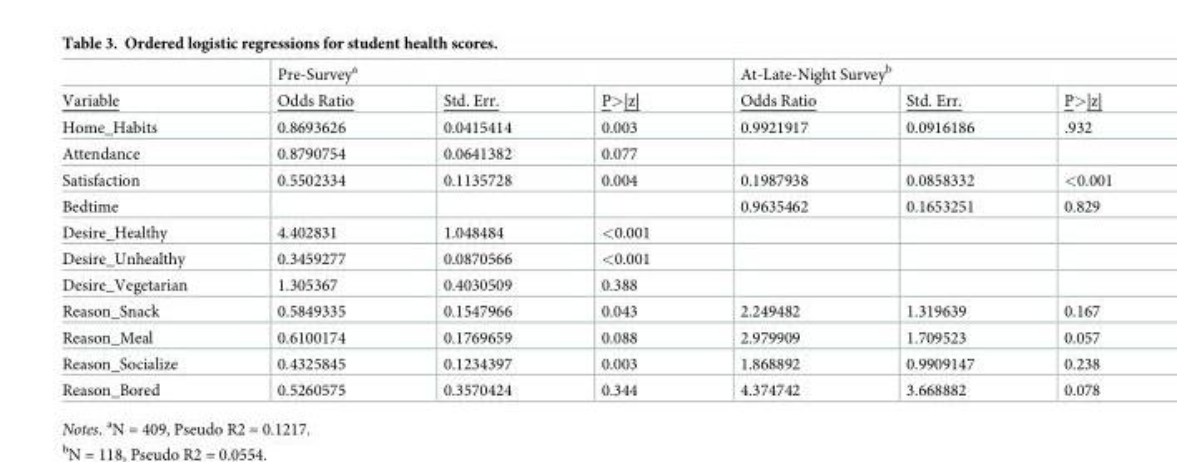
<table><thead><tr><td rowspan="2">Variable</td><td colspan="3">Pre-Survey<sup>a</sup></td><td colspan="3">At-Late-Night Survey<sup>b</sup></td></tr><tr><td>Odds Ratio</td><td>Std. Err.</td><td>P&gt;|z|</td><td>Odds Ratio</td><td>Std. Err.</td><td>P&gt;|z|</td></tr></thead><tbody><tr><td>Home_Habits</td><td>0.8693626</td><td>0.0415414</td><td>0.003</td><td>0.9921917</td><td>0.0916186</td><td>.932</td></tr><tr><td>Attendance</td><td>0.8790754</td><td>0.0641382</td><td>0.077</td><td></td><td></td><td></td></tr><tr><td>Satisfaction</td><td>0.5502334</td><td>0.1135728</td><td>0.004</td><td>0.1987938</td><td>0.0858332</td><td>&lt;0.001</td></tr><tr><td>Bedtime</td><td></td><td></td><td></td><td>0.9635462</td><td>0.1653251</td><td>0.829</td></tr><tr><td>Desire_Healthy</td><td>4.402831</td><td>1.048484</td><td>&lt;0.001</td><td></td><td></td><td></td></tr><tr><td>Desire_Unhealthy</td><td>0.3459277</td><td>0.0870566</td><td>&lt;0.001</td><td></td><td></td><td></td></tr><tr><td>Desire_Vegetarian</td><td>1.305367</td><td>0.4030509</td><td>0.388</td><td></td><td></td><td></td></tr><tr><td>Reason_Snack</td><td>0.5849335</td><td>0.1547966</td><td>0.043</td><td>2.249482</td><td>1.319639</td><td>0.167</td></tr><tr><td>Reason_Meal</td><td>0.6100174</td><td>0.1769659</td><td>0.088</td><td>2.979909</td><td>1.709523</td><td>0.057</td></tr><tr><td>Reason_Socialize</td><td>0.4325845</td><td>0.1234397</td><td>0.003</td><td>1.868892</td><td>0.9909147</td><td>0.238</td></tr><tr><td>Reason_Bored</td><td>0.5260575</td><td>0.3570424</td><td>0.344</td><td>4.374742</td><td>3.668882</td><td>0.078</td></tr></tbody></table>